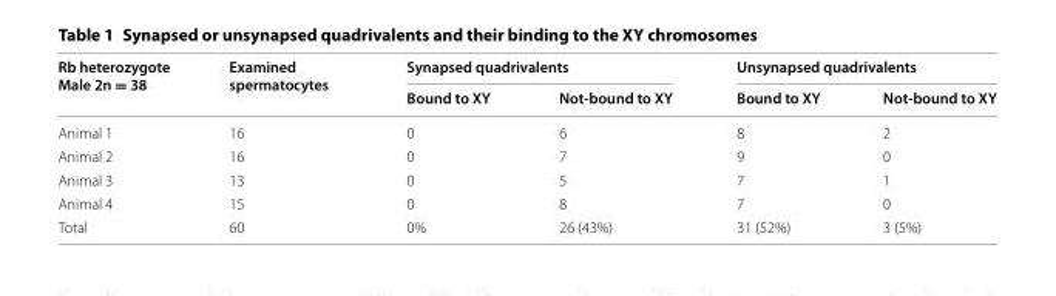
<table><thead><tr><td rowspan="2">Rb heterozygote Male 2n = 38</td><td rowspan="2">Examined spermatocytes</td><td colspan="2">Synapsed quadrivalents</td><td colspan="2">Unsynapsed quadrivalents</td></tr><tr><td>Bound to XY</td><td>Not-bound to XY</td><td>Bound to XY</td><td>Not-bound to XY</td></tr></thead><tbody><tr><td>Animal 1</td><td>16</td><td>0</td><td>6</td><td>8</td><td>2</td></tr><tr><td>Animal 2</td><td>16</td><td>0</td><td>7</td><td>9</td><td>0</td></tr><tr><td>Animal 3</td><td>13</td><td>0</td><td>5</td><td>7</td><td>1</td></tr><tr><td>Animal 4</td><td>15</td><td>0</td><td>8</td><td>7</td><td>0</td></tr><tr><td>Total</td><td>60</td><td>0%</td><td>26 (43%)</td><td>31 (52%)</td><td>3 (5%)</td></tr></tbody></table>